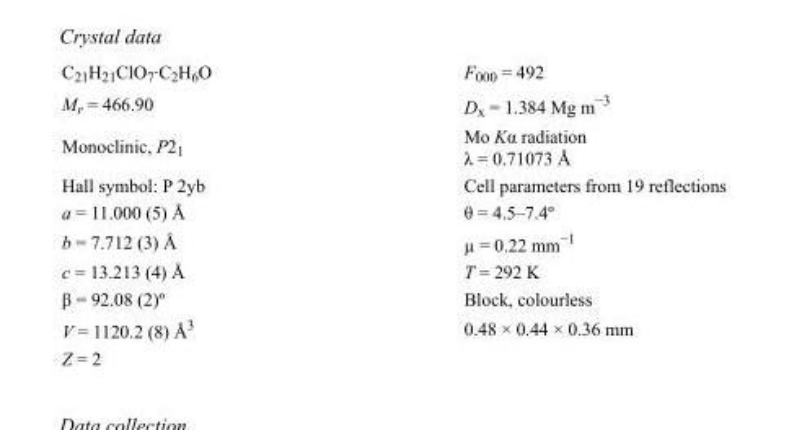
<table><tbody><tr><td>C<sub>21</sub>H<sub>21</sub>ClO<sub>7</sub>·C<sub>2</sub>H<sub>6</sub>O</td><td>F000 = 492</td></tr><tr><td>M<sub>r</sub> = 466.90</td><td>D<sub>x</sub> = 1.384 Mg m<sup>−3</sup></td></tr><tr><td>Monoclinic, P2<sub>1</sub></td><td>Mo Kα radiation λ = 0.71073 Å</td></tr><tr><td>Hall symbol: P 2yb</td><td>Cell parameters from 19 reflections</td></tr><tr><td>a = 11.000 (5) Å</td><td>θ = 4.5–7.4º</td></tr><tr><td>b = 7.712 (3) Å</td><td>µ = 0.22 mm<sup>−1</sup></td></tr><tr><td>c = 13.213 (4) Å</td><td>T = 292 K</td></tr><tr><td>β = 92.08 (2)º</td><td>Block, colourless</td></tr><tr><td>V = 1120.2 (8) Å<sup>3</sup></td><td>0.48 × 0.44 × 0.36 mm</td></tr><tr><td>Z = 2</td><td></td></tr></tbody></table>